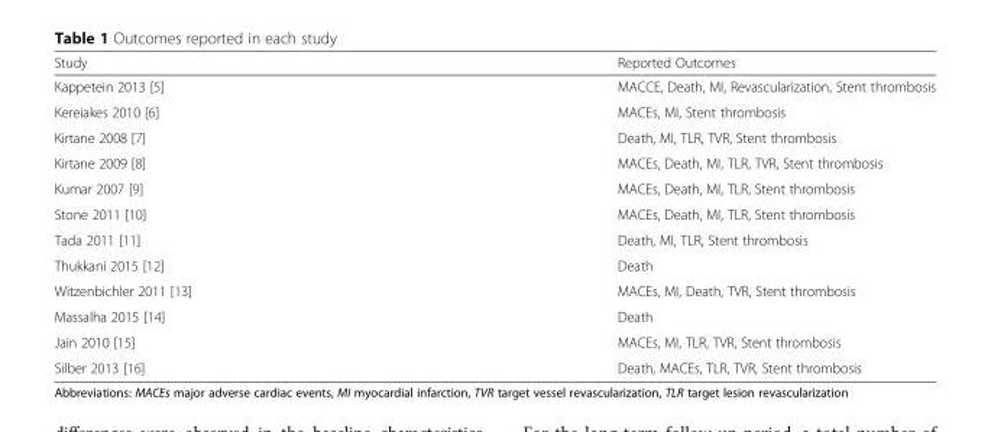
<table><thead><tr><td>Study</td><td>Reported Outcomes</td></tr></thead><tbody><tr><td>Kappetein 2013 [5]</td><td>MACCE, Death, MI, Revascularization, Stent thrombosis</td></tr><tr><td>Kereiakes 2010 [6]</td><td>MACEs, MI, Stent thrombosis</td></tr><tr><td>Kirtane 2008 [7]</td><td>Death, MI, TLR, TVR, Stent thrombosis</td></tr><tr><td>Kirtane 2009 [8]</td><td>MACEs, Death, MI, TLR, TVR, Stent thrombosis</td></tr><tr><td>Kumar 2007 [9]</td><td>MACEs, Death, MI, TLR, Stent thrombosis</td></tr><tr><td>Stone 2011 [10]</td><td>MACEs, Death, MI, TLR, Stent thrombosis</td></tr><tr><td>Tada 2011 [11]</td><td>Death, MI, TLR, Stent thrombosis</td></tr><tr><td>Thukkani 2015 [12]</td><td>Death</td></tr><tr><td>Witzenbichler 2011 [13]</td><td>MACEs, MI, Death, TVR, Stent thrombosis</td></tr><tr><td>Massalha 2015 [14]</td><td>Death</td></tr><tr><td>Jain 2010 [15]</td><td>MACEs, MI, TLR, TVR, Stent thrombosis</td></tr><tr><td>Silber 2013 [16]</td><td>Death, MACEs, TLR, TVR, Stent thrombosis</td></tr></tbody></table>